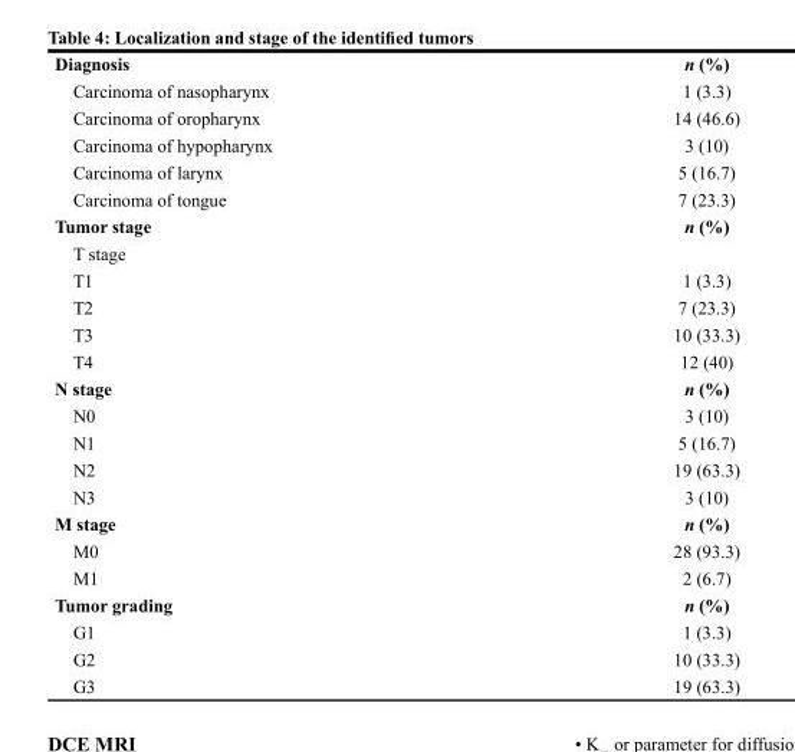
<table><thead><tr><td>Diagnosis</td><td>n (%)</td></tr></thead><tbody><tr><td>Carcinoma of nasopharynx</td><td>1 (3.3)</td></tr><tr><td>Carcinoma of oropharynx</td><td>14 (46.6)</td></tr><tr><td>Carcinoma of hypopharynx</td><td>3 (10)</td></tr><tr><td>Carcinoma of larynx</td><td>5 (16.7)</td></tr><tr><td>Carcinoma of tongue</td><td>7 (23.3)</td></tr><tr><td>Tumor stage</td><td>n (%)</td></tr><tr><td colspan="2">T stage</td></tr><tr><td>T1</td><td>1 (3.3)</td></tr><tr><td>T2</td><td>7 (23.3)</td></tr><tr><td>T3</td><td>10 (33.3)</td></tr><tr><td>T4</td><td>12 (40)</td></tr><tr><td>N stage</td><td>n (%)</td></tr><tr><td>N0</td><td>3 (10)</td></tr><tr><td>N1</td><td>5 (16.7)</td></tr><tr><td>N2</td><td>19 (63.3)</td></tr><tr><td>N3</td><td>3 (10)</td></tr><tr><td>M stage</td><td>n (%)</td></tr><tr><td>M0</td><td>28 (93.3)</td></tr><tr><td>M1</td><td>2 (6.7)</td></tr><tr><td>Tumor grading</td><td>n (%)</td></tr><tr><td>G1</td><td>1 (3.3)</td></tr><tr><td>G2</td><td>10 (33.3)</td></tr><tr><td>G3</td><td>19 (63.3)</td></tr></tbody></table>